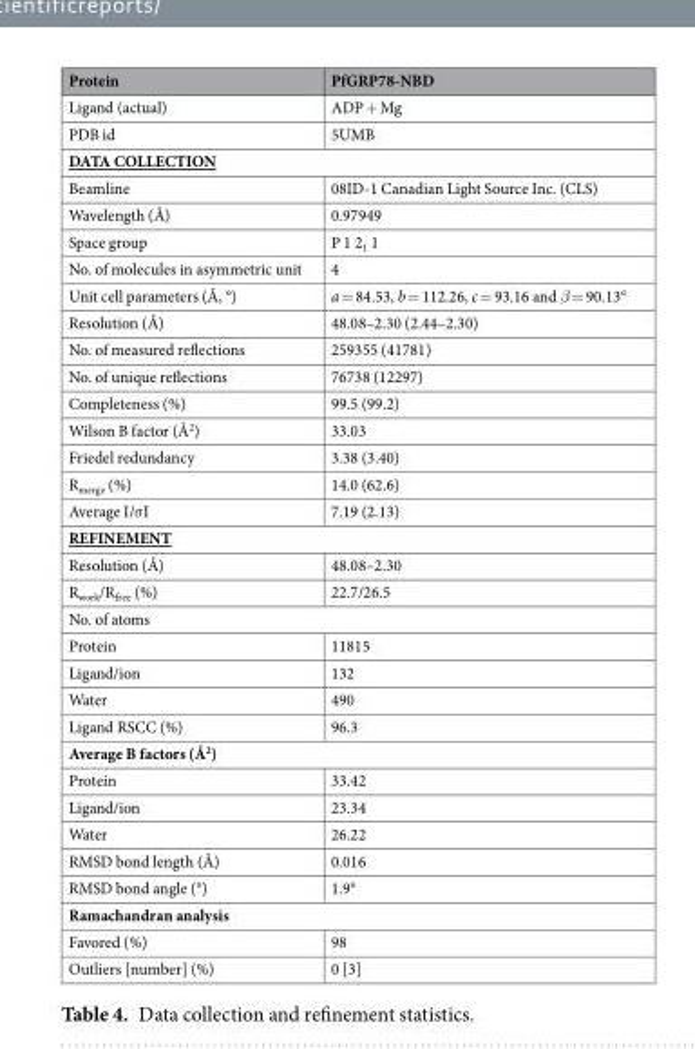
<table><thead><tr><td>Protein</td><td>PfGRP78-NBD</td></tr></thead><tbody><tr><td>Ligand (actual)</td><td>ADP + Mg</td></tr><tr><td>PDB id</td><td>5UMB</td></tr><tr><td colspan="2">DATA COLLECTION</td></tr><tr><td>Beamline</td><td>08ID-1 Canadian Light Source Inc. (CLS)</td></tr><tr><td>Wavelength (Å)</td><td>0.97949</td></tr><tr><td>Space group</td><td>P 1 2<sub>1</sub> 1</td></tr><tr><td>No. of molecules in asymmetric unit</td><td>4</td></tr><tr><td>Unit cell parameters (Å, °)</td><td>a = 84.53, b = 112.26, c = 93.16 and β = 90.13°</td></tr><tr><td>Resolution (Å)</td><td>48.08–2.30 (2.44–2.30)</td></tr><tr><td>No. of measured reflections</td><td>259355 (41781)</td></tr><tr><td>No. of unique reflections</td><td>76738 (12297)</td></tr><tr><td>Completeness (%)</td><td>99.5 (99.2)</td></tr><tr><td>Wilson B factor (Å<sup>2</sup>)</td><td>33.03</td></tr><tr><td>Friedel redundancy</td><td>3.38 (3.40)</td></tr><tr><td>R<sub>merge</sub> (%)</td><td>14.0 (62.6)</td></tr><tr><td>Average I/σI</td><td>7.19 (2.13)</td></tr><tr><td colspan="2">REFINEMENT</td></tr><tr><td>Resolution (Å)</td><td>48.08–2.30</td></tr><tr><td>R<sub>work</sub>/R<sub>free</sub> (%)</td><td>22.7/26.5</td></tr><tr><td colspan="2">No. of atoms</td></tr><tr><td>Protein</td><td>11815</td></tr><tr><td>Ligand/ion</td><td>132</td></tr><tr><td>Water</td><td>490</td></tr><tr><td>Ligand RSCC (%)</td><td>96.3</td></tr><tr><td colspan="2">Average B factors (Å<sup>2</sup>)</td></tr><tr><td>Protein</td><td>33.42</td></tr><tr><td>Ligand/ion</td><td>23.34</td></tr><tr><td>Water</td><td>26.22</td></tr><tr><td>RMSD bond length (Å)</td><td>0.016</td></tr><tr><td>RMSD bond angle (°)</td><td>1.9°</td></tr><tr><td colspan="2">Ramachandran analysis</td></tr><tr><td>Favored (%)</td><td>98</td></tr><tr><td>Outliers [number] (%)</td><td>0 [3]</td></tr></tbody></table>